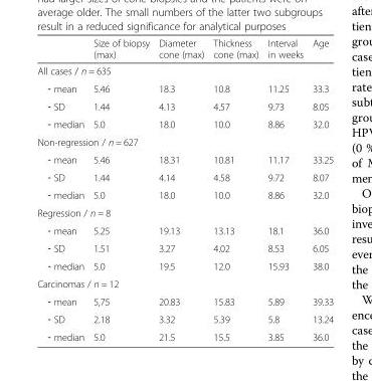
<table><thead><tr><td></td><td>Size of biopsy (max)</td><td>Diameter cone (max)</td><td>Thickness cone (max)</td><td>Interval in weeks</td><td>Age</td></tr></thead><tbody><tr><td colspan="6">All cases / n = 635</td></tr><tr><td>‐ mean</td><td>5.46</td><td>18.3</td><td>10.8</td><td>11.25</td><td>33.3</td></tr><tr><td>‐ SD</td><td>1.44</td><td>4.13</td><td>4.57</td><td>9.73</td><td>8.05</td></tr><tr><td>‐ median</td><td>5.0</td><td>18.0</td><td>10.0</td><td>8.86</td><td>32.0</td></tr><tr><td colspan="6">Non-regression / n = 627</td></tr><tr><td>‐ mean</td><td>5.46</td><td>18.31</td><td>10.81</td><td>11.17</td><td>33.25</td></tr><tr><td>‐ SD</td><td>1.44</td><td>4.14</td><td>4.58</td><td>9.72</td><td>8.07</td></tr><tr><td>‐ median</td><td>5.0</td><td>18.0</td><td>10.0</td><td>8.86</td><td>32.0</td></tr><tr><td colspan="6">Regression / n = 8</td></tr><tr><td>‐ mean</td><td>5.25</td><td>19.13</td><td>13.13</td><td>18.1</td><td>36.0</td></tr><tr><td>‐ SD</td><td>1.51</td><td>3.27</td><td>4.02</td><td>8.53</td><td>6.05</td></tr><tr><td>‐ median</td><td>5.0</td><td>19.5</td><td>12.0</td><td>15.93</td><td>38.0</td></tr><tr><td colspan="6">Carcinomas / n = 12</td></tr><tr><td>‐ mean</td><td>5,75</td><td>20.83</td><td>15.83</td><td>5.89</td><td>39.33</td></tr><tr><td>‐ SD</td><td>2.18</td><td>3.32</td><td>5.39</td><td>5.8</td><td>13.24</td></tr><tr><td>‐ median</td><td>5.0</td><td>21.5</td><td>15.5</td><td>3.85</td><td>36.0</td></tr></tbody></table>